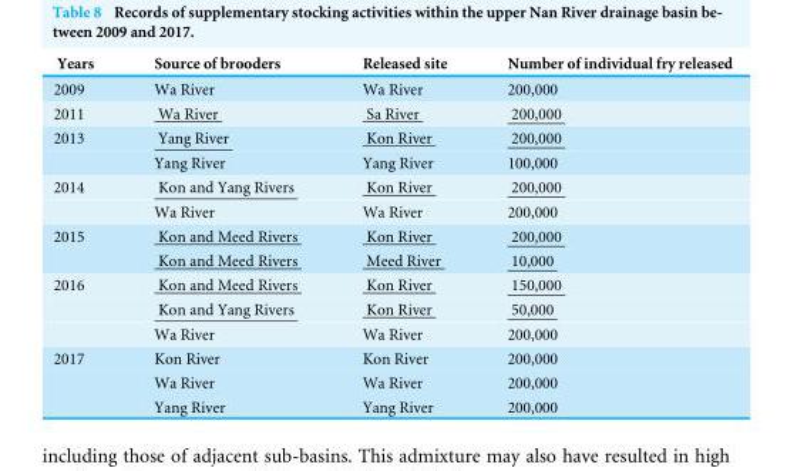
<table><thead><tr><td>Years</td><td>Source of brooders</td><td>Released site</td><td>Number of individual fry released</td></tr></thead><tbody><tr><td>2009</td><td>Wa River</td><td>Wa River</td><td>200,000</td></tr><tr><td>2011</td><td>Wa River</td><td>Sa River</td><td>200,000</td></tr><tr><td rowspan="2">2013</td><td>Yang River</td><td>Kon River</td><td>200,000</td></tr><tr><td>Yang River</td><td>Yang River</td><td>100,000</td></tr><tr><td rowspan="2">2014</td><td>Kon and Yang Rivers</td><td>Kon River</td><td>200,000</td></tr><tr><td>Wa River</td><td>Wa River</td><td>200,000</td></tr><tr><td rowspan="2">2015</td><td>Kon and Meed Rivers</td><td>Kon River</td><td>200,000</td></tr><tr><td>Kon and Meed Rivers</td><td>Meed River</td><td>10,000</td></tr><tr><td rowspan="3">2016</td><td>Kon and Meed Rivers</td><td>Kon River</td><td>150,000</td></tr><tr><td>Kon and Yang Rivers</td><td>Kon River</td><td>50,000</td></tr><tr><td>Wa River</td><td>Wa River</td><td>200,000</td></tr><tr><td rowspan="3">2017</td><td>Kon River</td><td>Kon River</td><td>200,000</td></tr><tr><td>Wa River</td><td>Wa River</td><td>200,000</td></tr><tr><td>Yang River</td><td>Yang River</td><td>200,000</td></tr></tbody></table>